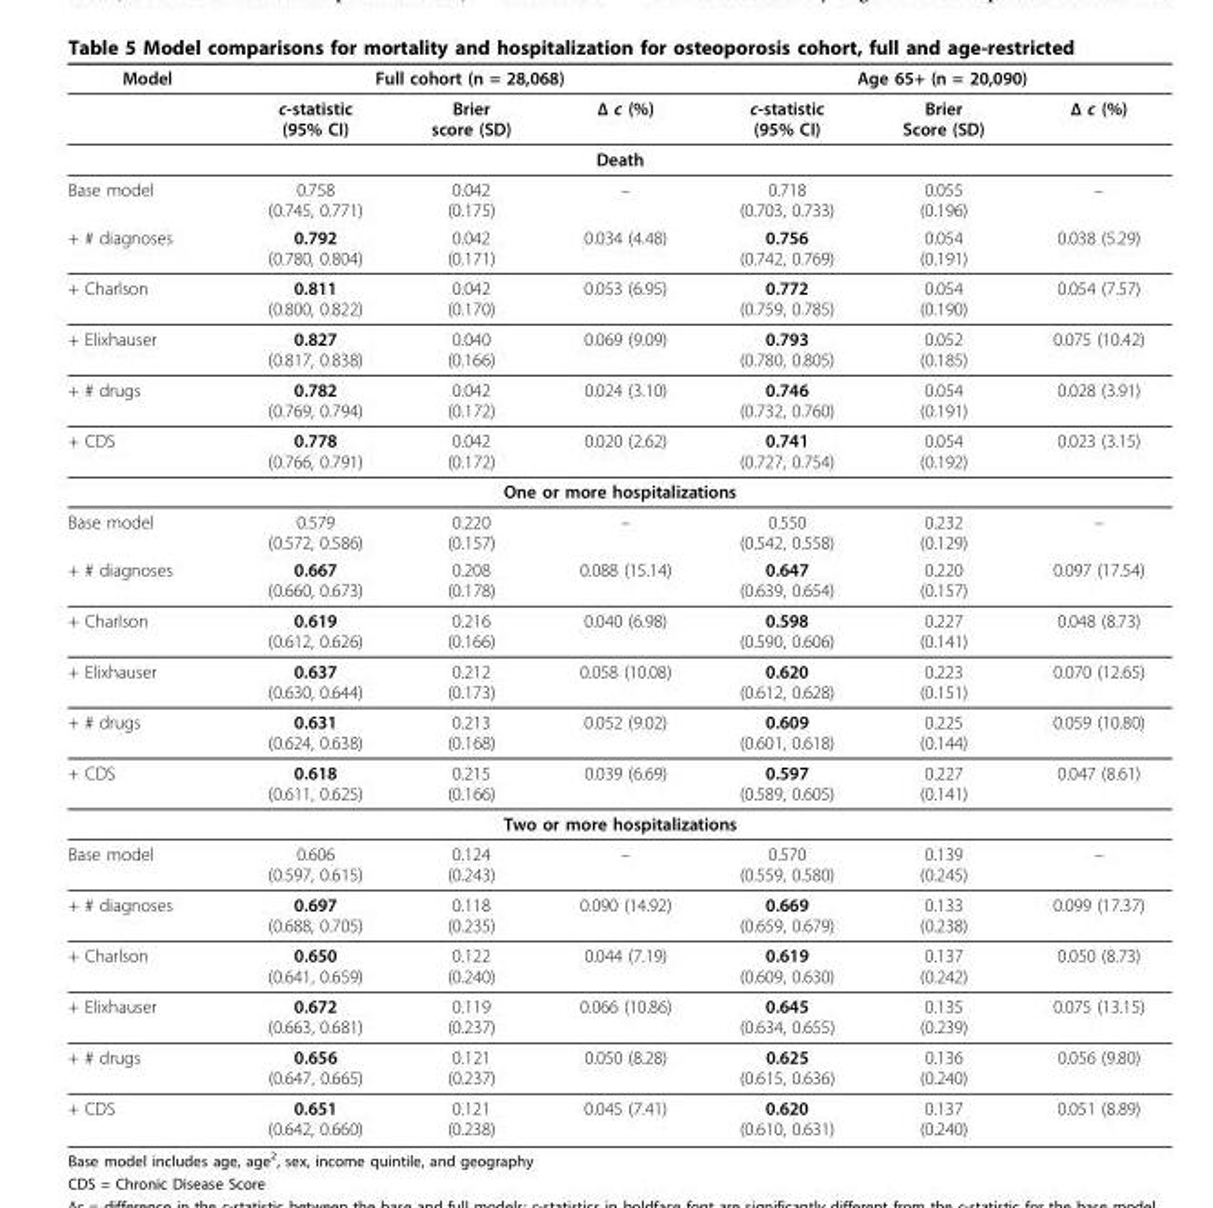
<table><thead><tr><td rowspan="2">Model</td><td colspan="3">Full cohort (n = 28,068)</td><td colspan="3">Age 65+ (n = 20,090)</td></tr><tr><td>c-statistic (95% CI)</td><td>Brier score (SD)</td><td>Δ c (%)</td><td>c-statistic (95% CI)</td><td>Brier Score (SD)</td><td>Δ c (%)</td></tr></thead><tbody><tr><td colspan="7">Death</td></tr><tr><td>Base model</td><td>0.758 (0.745, 0.771)</td><td>0.042 (0.175)</td><td>–</td><td>0.718 (0.703, 0.733)</td><td>0.055 (0.196)</td><td>–</td></tr><tr><td>+ # diagnoses</td><td>0.792 (0.780, 0.804)</td><td>0.042 (0.171)</td><td>0.034 (4.48)</td><td>0.756 (0.742, 0.769)</td><td>0.054 (0.191)</td><td>0.038 (5.29)</td></tr><tr><td>+ Charlson</td><td>0.811 (0.800, 0.822)</td><td>0.042 (0.170)</td><td>0.053 (6.95)</td><td>0.772 (0.759, 0.785)</td><td>0.054 (0.190)</td><td>0.054 (7.57)</td></tr><tr><td>+ Elixhauser</td><td>0.827 (0.817, 0.838)</td><td>0.040 (0.166)</td><td>0.069 (9.09)</td><td>0.793 (0.780, 0.805)</td><td>0.052 (0.185)</td><td>0.075 (10.42)</td></tr><tr><td>+ # drugs</td><td>0.782 (0.769, 0.794)</td><td>0.042 (0.172)</td><td>0.024 (3.10)</td><td>0.746 (0.732, 0.760)</td><td>0.054 (0.191)</td><td>0.028 (3.91)</td></tr><tr><td>+ CDS</td><td>0.778 (0.766, 0.791)</td><td>0.042 (0.172)</td><td>0.020 (2.62)</td><td>0.741 (0.727, 0.754)</td><td>0.054 (0.192)</td><td>0.023 (3.15)</td></tr><tr><td colspan="7">One or more hospitalizations</td></tr><tr><td>Base model</td><td>0.579 (0.572, 0.586)</td><td>0.220 (0.157)</td><td>–</td><td>0.550 (0.542, 0.558)</td><td>0.232 (0.129)</td><td>–</td></tr><tr><td>+ # diagnoses</td><td>0.667 (0.660, 0.673)</td><td>0.208 (0.178)</td><td>0.088 (15.14)</td><td>0.647 (0.639, 0.654)</td><td>0.220 (0.157)</td><td>0.097 (17.54)</td></tr><tr><td>+ Charlson</td><td>0.619 (0.612, 0.626)</td><td>0.216 (0.166)</td><td>0.040 (6.98)</td><td>0.598 (0.590, 0.606)</td><td>0.227 (0.141)</td><td>0.048 (8.73)</td></tr><tr><td>+ Elixhauser</td><td>0.637 (0.630, 0.644)</td><td>0.212 (0.173)</td><td>0.058 (10.08)</td><td>0.620 (0.612, 0.628)</td><td>0.223 (0.151)</td><td>0.070 (12.65)</td></tr><tr><td>+ # drugs</td><td>0.631 (0.624, 0.638)</td><td>0.213 (0.168)</td><td>0.052 (9.02)</td><td>0.609 (0.601, 0.618)</td><td>0.225 (0.144)</td><td>0.059 (10.80)</td></tr><tr><td>+ CDS</td><td>0.618 (0.611, 0.625)</td><td>0.215 (0.166)</td><td>0.039 (6.69)</td><td>0.597 (0.589, 0.605)</td><td>0.227 (0.141)</td><td>0.047 (8.61)</td></tr><tr><td colspan="7">Two or more hospitalizations</td></tr><tr><td>Base model</td><td>0.606 (0.597, 0.615)</td><td>0.124 (0.243)</td><td>–</td><td>0.570 (0.559, 0.580)</td><td>0.139 (0.245)</td><td>–</td></tr><tr><td>+ # diagnoses</td><td>0.697 (0.688, 0.705)</td><td>0.118 (0.235)</td><td>0.090 (14.92)</td><td>0.669 (0.659, 0.679)</td><td>0.133 (0.238)</td><td>0.099 (17.37)</td></tr><tr><td>+ Charlson</td><td>0.650 (0.641, 0.659)</td><td>0.122 (0.240)</td><td>0.044 (7.19)</td><td>0.619 (0.609, 0.630)</td><td>0.137 (0.242)</td><td>0.050 (8.73)</td></tr><tr><td>+ Elixhauser</td><td>0.672 (0.663, 0.681)</td><td>0.119 (0.237)</td><td>0.066 (10.86)</td><td>0.645 (0.634, 0.655)</td><td>0.135 (0.239)</td><td>0.075 (13.15)</td></tr><tr><td>+ # drugs</td><td>0.656 (0.647, 0.665)</td><td>0.121 (0.237)</td><td>0.050 (8.28)</td><td>0.625 (0.615, 0.636)</td><td>0.136 (0.240)</td><td>0.056 (9.80)</td></tr><tr><td>+ CDS</td><td>0.651 (0.642, 0.660)</td><td>0.121 (0.238)</td><td>0.045 (7.41)</td><td>0.620 (0.610, 0.631)</td><td>0.137 (0.240)</td><td>0.051 (8.89)</td></tr></tbody></table>